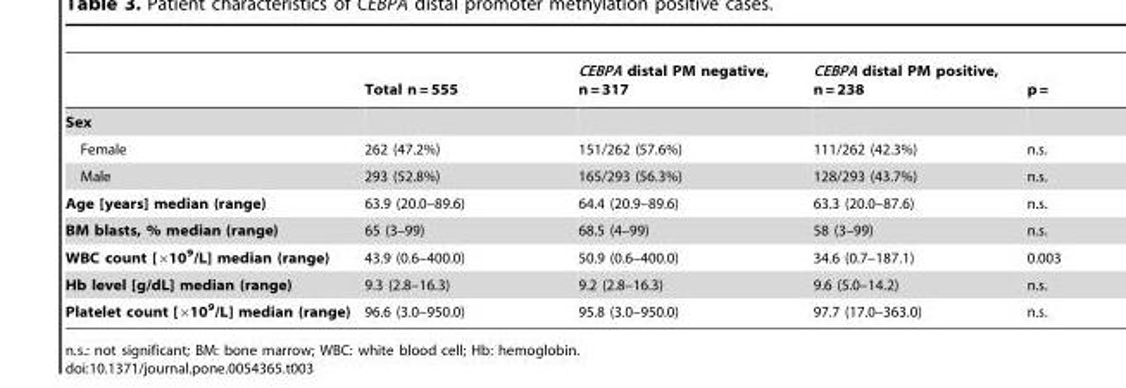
<table><thead><tr><td></td><td>Total n = 555</td><td>CEBPA distal PM negative, n = 317</td><td>CEBPA distal PM positive, n = 238</td><td>p =</td></tr></thead><tbody><tr><td colspan="5">Sex</td></tr><tr><td>Female</td><td>262 (47.2%)</td><td>151/262 (57.6%)</td><td>111/262 (42.3%)</td><td>n.s.</td></tr><tr><td>Male</td><td>293 (52.8%)</td><td>165/293 (56.3%)</td><td>128/293 (43.7%)</td><td>n.s.</td></tr><tr><td>Age [years] median (range)</td><td>63.9 (20.0–89.6)</td><td>64.4 (20.9–89.6)</td><td>63.3 (20.0–87.6)</td><td>n.s.</td></tr><tr><td>BM blasts, % median (range)</td><td>65 (3–99)</td><td>68.5 (4–99)</td><td>58 (3–99)</td><td>n.s.</td></tr><tr><td>WBC count [×10<sup>9</sup>/L] median (range)</td><td>43.9 (0.6–400.0)</td><td>50.9 (0.6–400.0)</td><td>34.6 (0.7–187.1)</td><td>0.003</td></tr><tr><td>Hb level [g/dL] median (range)</td><td>9.3 (2.8–16.3)</td><td>9.2 (2.8–16.3)</td><td>9.6 (5.0–14.2)</td><td>n.s.</td></tr><tr><td>Platelet count [×10<sup>9</sup>/L] median (range)</td><td>96.6 (3.0–950.0)</td><td>95.8 (3.0–950.0)</td><td>97.7 (17.0–363.0)</td><td>n.s.</td></tr></tbody></table>